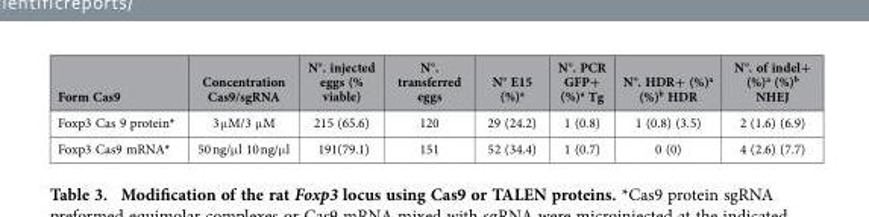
<table><thead><tr><td>Form Cas9</td><td>Concentration Cas9/sgRNA</td><td>N°. injected eggs (% viable)</td><td>N°. transferred eggs</td><td>N° E15 (%)<sup>a</sup></td><td>N°. PCR GFP+ (%)<sup>a</sup> Tg</td><td>N°. HDR+ (%)<sup>a</sup> (%)<sup>b</sup> HDR</td><td>N°. of indel+ (%)<sup>a</sup> (%)<sup>b</sup> NHEJ</td></tr></thead><tbody><tr><td>Foxp3 Cas 9 protein*</td><td>3 μ M/3 μ M</td><td>215 (65.6)</td><td>120</td><td>29 (24.2)</td><td>1 (0.8)</td><td>1 (0.8) (3.5)</td><td>2 (1.6) (6.9)</td></tr><tr><td>Foxp3 Cas9 mRNA*</td><td>50 ng/μ l 10 ng/μ l</td><td>191(79.1)</td><td>151</td><td>52 (34.4)</td><td>1 (0.7)</td><td>0 (0)</td><td>4 (2.6) (7.7)</td></tr></tbody></table>